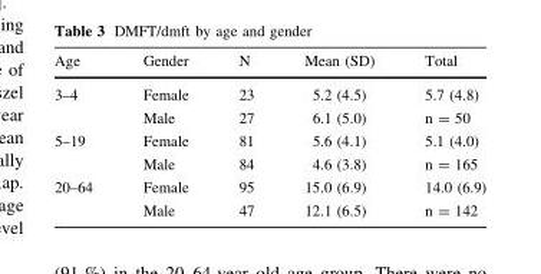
<table><thead><tr><td>Age</td><td>Gender</td><td>N</td><td>Mean (SD)</td><td>Total</td></tr></thead><tbody><tr><td rowspan="2">3–4</td><td>Female</td><td>23</td><td>5.2 (4.5)</td><td>5.7 (4.8)</td></tr><tr><td>Male</td><td>27</td><td>6.1 (5.0)</td><td>n = 50</td></tr><tr><td rowspan="2">5–19</td><td>Female</td><td>81</td><td>5.6 (4.1)</td><td>5.1 (4.0)</td></tr><tr><td>Male</td><td>84</td><td>4.6 (3.8)</td><td>n = 165</td></tr><tr><td rowspan="2">20–64</td><td>Female</td><td>95</td><td>15.0 (6.9)</td><td>14.0 (6.9)</td></tr><tr><td>Male</td><td>47</td><td>12.1 (6.5)</td><td>n = 142</td></tr></tbody></table>